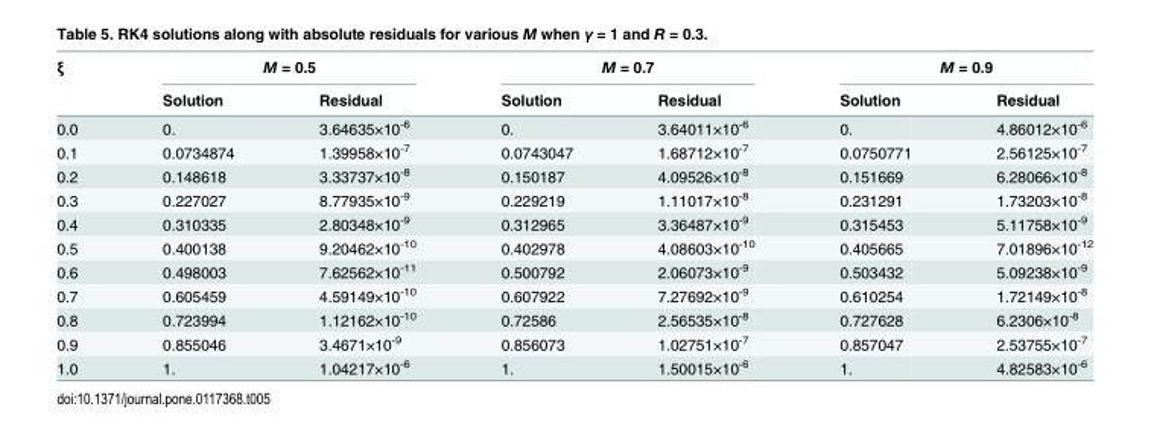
<table><thead><tr><td rowspan="2">ξ</td><td colspan="2">M = 0.5</td><td colspan="2">M = 0.7</td><td colspan="2">M = 0.9</td></tr><tr><td>Solution</td><td>Residual</td><td>Solution</td><td>Residual</td><td>Solution</td><td>Residual</td></tr></thead><tbody><tr><td>0.0</td><td>0.</td><td>3.64635×10<sup>-6</sup></td><td>0.</td><td>3.64011×10<sup>-6</sup></td><td>0.</td><td>4.86012×10<sup>-6</sup></td></tr><tr><td>0.1</td><td>0.0734874</td><td>1.39958×10<sup>-7</sup></td><td>0.0743047</td><td>1.68712×10<sup>-7</sup></td><td>0.0750771</td><td>2.56125×10<sup>-7</sup></td></tr><tr><td>0.2</td><td>0.148618</td><td>3.33737×10<sup>-8</sup></td><td>0.150187</td><td>4.09526×10<sup>-8</sup></td><td>0.151669</td><td>6.28066×10<sup>-8</sup></td></tr><tr><td>0.3</td><td>0.227027</td><td>8.77935×10<sup>-9</sup></td><td>0.229219</td><td>1.11017×10<sup>-8</sup></td><td>0.231291</td><td>1.73203×10<sup>-8</sup></td></tr><tr><td>0.4</td><td>0.310335</td><td>2.80348×10<sup>-9</sup></td><td>0.312965</td><td>3.36487×10<sup>-9</sup></td><td>0.315453</td><td>5.11758×10<sup>-9</sup></td></tr><tr><td>0.5</td><td>0.400138</td><td>9.20462×10<sup>-10</sup></td><td>0.402978</td><td>4.08603×10<sup>-10</sup></td><td>0.405665</td><td>7.01896×10<sup>-12</sup></td></tr><tr><td>0.6</td><td>0.498003</td><td>7.62562×10<sup>-11</sup></td><td>0.500792</td><td>2.06073×10<sup>-9</sup></td><td>0.503432</td><td>5.09238×10<sup>-9</sup></td></tr><tr><td>0.7</td><td>0.605459</td><td>4.59149×10<sup>-10</sup></td><td>0.607922</td><td>7.27692×10<sup>-9</sup></td><td>0.610254</td><td>1.72149×10<sup>-8</sup></td></tr><tr><td>0.8</td><td>0.723994</td><td>1.12162×10<sup>-10</sup></td><td>0.72586</td><td>2.56535×10<sup>-8</sup></td><td>0.727628</td><td>6.2306×10<sup>-8</sup></td></tr><tr><td>0.9</td><td>0.855046</td><td>3.4671×10<sup>-9</sup></td><td>0.856073</td><td>1.02751×10<sup>-7</sup></td><td>0.857047</td><td>2.53755×10<sup>-7</sup></td></tr><tr><td>1.0</td><td>1.</td><td>1.04217×10<sup>-6</sup></td><td>1.</td><td>1.50015×10<sup>-6</sup></td><td>1.</td><td>4.82583×10<sup>-6</sup></td></tr></tbody></table>